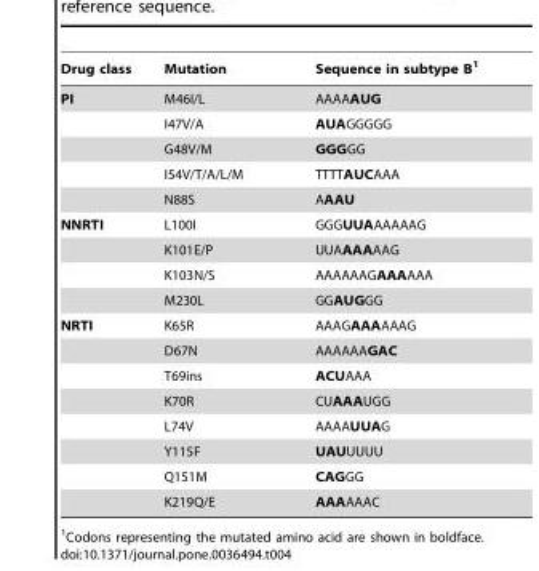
<table><thead><tr><td>Drug class</td><td>Mutation</td><td>Sequence in subtype B<sup>1</sup></td></tr></thead><tbody><tr><td rowspan="5">PI</td><td>M46I/L</td><td>AAAAAUG</td></tr><tr><td>I47V/A</td><td>AUAGGGGG</td></tr><tr><td>G48V/M</td><td>GGGGG</td></tr><tr><td>I54V/T/A/L/M</td><td>TTTTAUCAAA</td></tr><tr><td>N88S</td><td>AAAU</td></tr><tr><td rowspan="4">NNRTI</td><td>L100I</td><td>GGGUUAAAAAAG</td></tr><tr><td>K101E/P</td><td>UUAAAAAAG</td></tr><tr><td>K103N/S</td><td>AAAAAAGAAAAAA</td></tr><tr><td>M230L</td><td>GGAUGGG</td></tr><tr><td rowspan="8">NRTI</td><td>K65R</td><td>AAAGAAAAAAG</td></tr><tr><td>D67N</td><td>AAAAAAGAC</td></tr><tr><td>T69ins</td><td>ACUAAA</td></tr><tr><td>K70R</td><td>CUAAAUGG</td></tr><tr><td>L74V</td><td>AAAAUUAG</td></tr><tr><td>Y115F</td><td>UAUUUUU</td></tr><tr><td>Q151M</td><td>CAGGG</td></tr><tr><td>K219Q/E</td><td>AAAAAAC</td></tr></tbody></table>